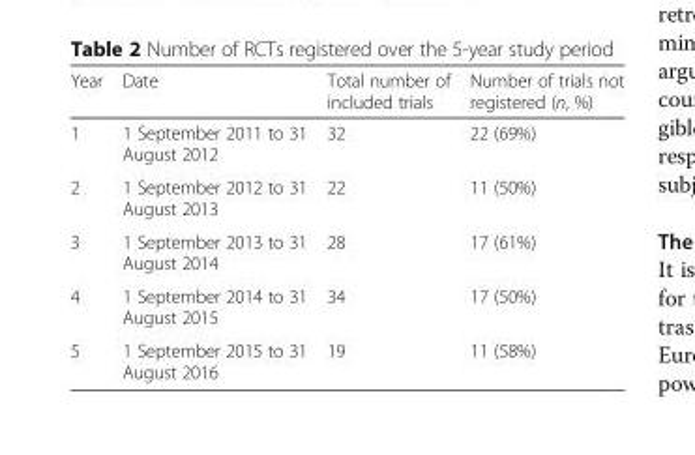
<table><thead><tr><td>Year</td><td>Date</td><td>Total number of included trials</td><td>Number of trials not registered (n, %)</td></tr></thead><tbody><tr><td>1</td><td>1 September 2011 to 31 August 2012</td><td>32</td><td>22 (69%)</td></tr><tr><td>2</td><td>1 September 2012 to 31 August 2013</td><td>22</td><td>11 (50%)</td></tr><tr><td>3</td><td>1 September 2013 to 31 August 2014</td><td>28</td><td>17 (61%)</td></tr><tr><td>4</td><td>1 September 2014 to 31 August 2015</td><td>34</td><td>17 (50%)</td></tr><tr><td>5</td><td>1 September 2015 to 31 August 2016</td><td>19</td><td>11 (58%)</td></tr></tbody></table>